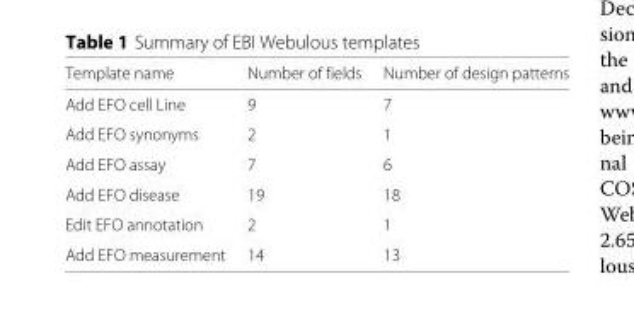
<table><thead><tr><td>Template name</td><td>Number of fields</td><td>Number of design patterns</td></tr></thead><tbody><tr><td>Add EFO cell Line</td><td>9</td><td>7</td></tr><tr><td>Add EFO synonyms</td><td>2</td><td>1</td></tr><tr><td>Add EFO assay</td><td>7</td><td>6</td></tr><tr><td>Add EFO disease</td><td>19</td><td>18</td></tr><tr><td>Edit EFO annotation</td><td>2</td><td>1</td></tr><tr><td>Add EFO measurement</td><td>14</td><td>13</td></tr></tbody></table>